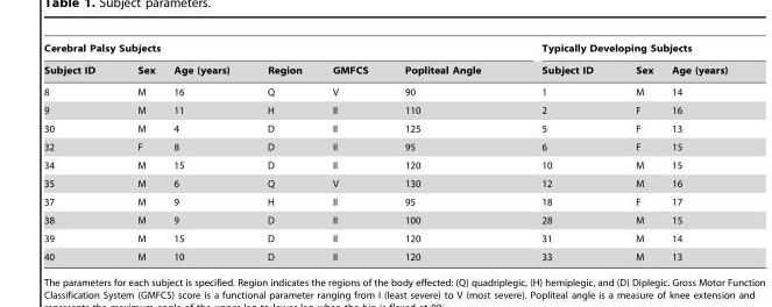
<table><thead><tr><td colspan="6">Cerebral Palsy Subjects</td><td colspan="3">Typically Developing Subjects</td></tr><tr><td>Subject ID</td><td>Sex</td><td>Age (years)</td><td>Region</td><td>GMFCS</td><td>Popliteal Angle</td><td>Subject ID</td><td>Sex</td><td>Age (years)</td></tr></thead><tbody><tr><td>8</td><td>M</td><td>16</td><td>Q</td><td>V</td><td>90</td><td>1</td><td>M</td><td>14</td></tr><tr><td>9</td><td>M</td><td>11</td><td>H</td><td>II</td><td>110</td><td>2</td><td>F</td><td>16</td></tr><tr><td>30</td><td>M</td><td>4</td><td>D</td><td>II</td><td>125</td><td>5</td><td>F</td><td>13</td></tr><tr><td>32</td><td>F</td><td>8</td><td>D</td><td>II</td><td>95</td><td>6</td><td>F</td><td>15</td></tr><tr><td>34</td><td>M</td><td>15</td><td>D</td><td>II</td><td>120</td><td>10</td><td>M</td><td>15</td></tr><tr><td>35</td><td>M</td><td>6</td><td>Q</td><td>V</td><td>130</td><td>12</td><td>M</td><td>16</td></tr><tr><td>37</td><td>M</td><td>9</td><td>H</td><td>II</td><td>95</td><td>18</td><td>F</td><td>17</td></tr><tr><td>38</td><td>M</td><td>9</td><td>D</td><td>II</td><td>100</td><td>28</td><td>M</td><td>15</td></tr><tr><td>39</td><td>M</td><td>15</td><td>D</td><td>II</td><td>120</td><td>31</td><td>M</td><td>14</td></tr><tr><td>40</td><td>M</td><td>10</td><td>D</td><td>II</td><td>120</td><td>33</td><td>M</td><td>13</td></tr></tbody></table>